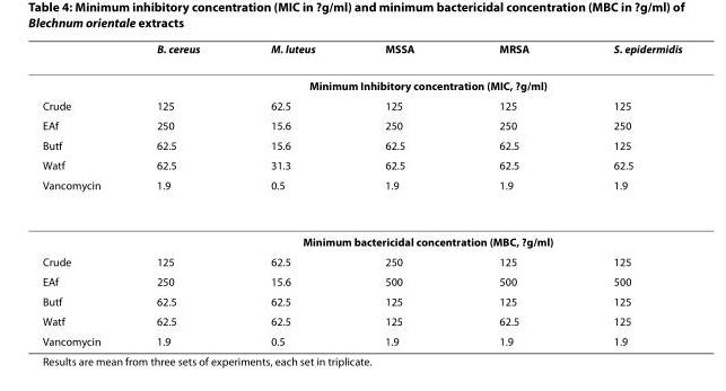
<table><thead><tr><td></td><td>B. cereus</td><td>M. luteus</td><td>MSSA</td><td>MRSA</td><td>S. epidermidis</td></tr></thead><tbody><tr><td></td><td colspan="5">Minimum Inhibitory concentration (MIC, ?g/ml)</td></tr><tr><td>Crude</td><td>125</td><td>62.5</td><td>125</td><td>125</td><td>125</td></tr><tr><td>EAf</td><td>250</td><td>15.6</td><td>250</td><td>250</td><td>250</td></tr><tr><td>Butf</td><td>62.5</td><td>15.6</td><td>62.5</td><td>62.5</td><td>125</td></tr><tr><td>Watf</td><td>62.5</td><td>31.3</td><td>62.5</td><td>62.5</td><td>62.5</td></tr><tr><td rowspan="2">Vancomycin</td><td>1.9</td><td>0.5</td><td>1.9</td><td>1.9</td><td>1.9</td></tr><tr><td colspan="5">Minimum bactericidal concentration (MBC, ?g/ml)</td></tr><tr><td>Crude</td><td>125</td><td>62.5</td><td>250</td><td>125</td><td>125</td></tr><tr><td>EAf</td><td>250</td><td>15.6</td><td>500</td><td>500</td><td>500</td></tr><tr><td>Butf</td><td>62.5</td><td>62.5</td><td>125</td><td>125</td><td>125</td></tr><tr><td>Watf</td><td>62.5</td><td>62.5</td><td>125</td><td>62.5</td><td>125</td></tr><tr><td>Vancomycin</td><td>1.9</td><td>0.5</td><td>1.9</td><td>1.9</td><td>1.9</td></tr></tbody></table>